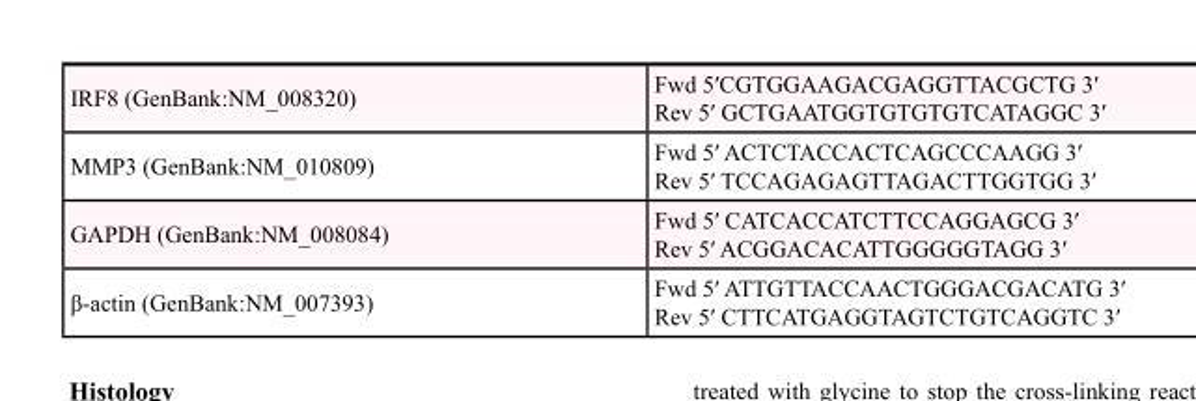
<table><tbody><tr><td>IRF8 (GenBank:NM_008320)</td><td>Fwd 5′CGTGGAAGACGAGGTTACGCTG 3′ Rev 5′ GCTGAATGGTGTGTGTCATAGGC 3′</td></tr><tr><td>MMP3 (GenBank:NM_010809)</td><td>Fwd 5′ ACTCTACCACTCAGCCCAAGG 3′ Rev 5′ TCCAGAGAGTTAGACTTGGTGG 3′</td></tr><tr><td>GAPDH (GenBank:NM_008084)</td><td>Fwd 5′ CATCACCATCTTCCAGGAGCG 3′ Rev 5′ ACGGACACATTGGGGGTAGG 3′</td></tr><tr><td>β-actin (GenBank:NM_007393)</td><td>Fwd 5′ ATTGTTACCAACTGGGACGACATG 3′ Rev 5′ CTTCATGAGGTAGTCTGTCAGGTC 3′</td></tr></tbody></table>